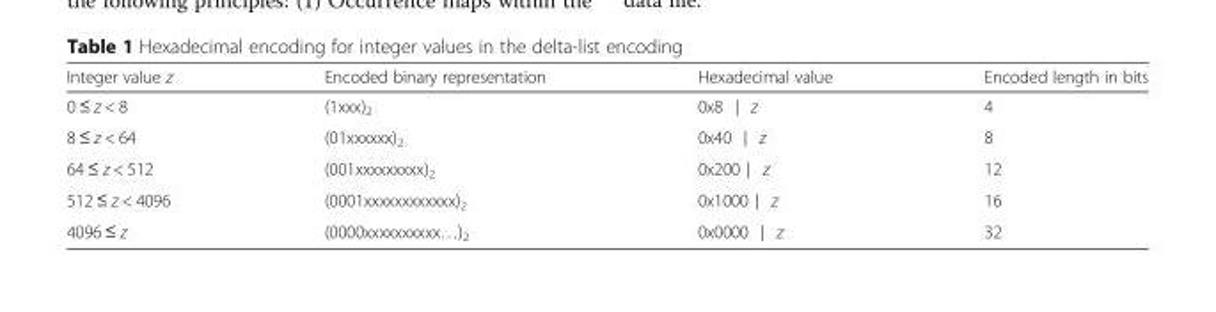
<table><thead><tr><td>Integer value z</td><td>Encoded binary representation</td><td>Hexadecimal value</td><td>Encoded length in bits</td></tr></thead><tbody><tr><td>0 ≤ z &lt; 8</td><td>(1xxx)<sub>2</sub></td><td>0x8 ∣ z</td><td>4</td></tr><tr><td>8 ≤ z &lt; 64</td><td>(01xxxxxx)<sub>2</sub></td><td>0x40 ∣ z</td><td>8</td></tr><tr><td>64 ≤ z &lt; 512</td><td>(001xxxxxxxxx)<sub>2</sub></td><td>0x200 ∣ z</td><td>12</td></tr><tr><td>512 ≤ z &lt; 4096</td><td>(0001xxxxxxxxxxxx)<sub>2</sub></td><td>0x1000 ∣ z</td><td>16</td></tr><tr><td>4096 ≤ z</td><td>(0000xxxxxxxxxx…)<sub>2</sub></td><td>0x0000 ∣ z</td><td>32</td></tr></tbody></table>